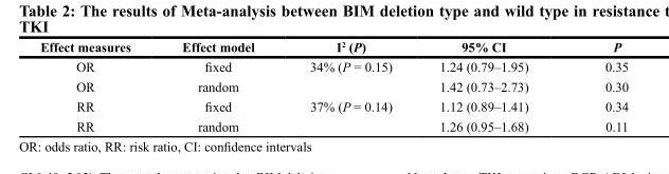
<table><thead><tr><td>Effect measures</td><td>Effect model</td><td>I<sup>2</sup> (P)</td><td>95% CI</td><td>P</td></tr></thead><tbody><tr><td>OR</td><td>fixed</td><td>34% (P = 0.15)</td><td>1.24 (0.79–1.95)</td><td>0.35</td></tr><tr><td>OR</td><td>random</td><td></td><td>1.42 (0.73–2.73)</td><td>0.30</td></tr><tr><td>RR</td><td>fixed</td><td>37% (P = 0.14)</td><td>1.12 (0.89–1.41)</td><td>0.34</td></tr><tr><td>RR</td><td>random</td><td></td><td>1.26 (0.95–1.68)</td><td>0.11</td></tr></tbody></table>